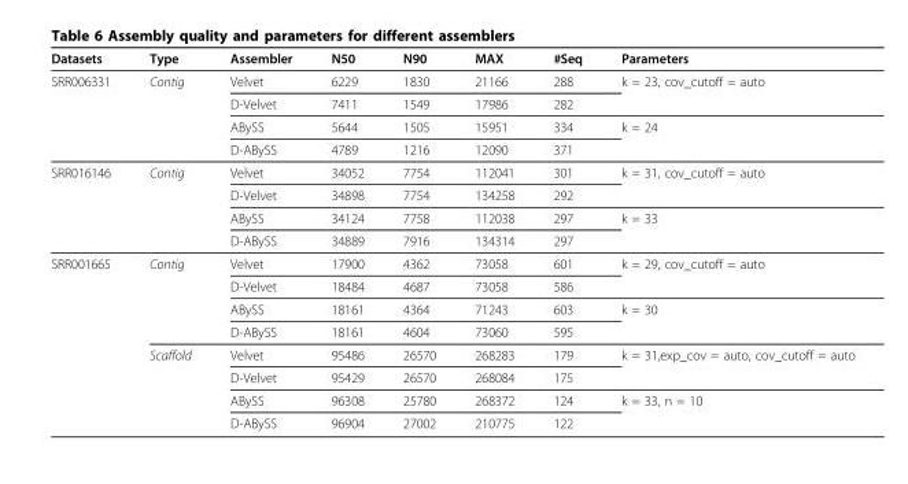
<table><thead><tr><td>Datasets</td><td>Type</td><td>Assembler</td><td>N50</td><td>N90</td><td>MAX</td><td>#Seq</td><td>Parameters</td></tr></thead><tbody><tr><td rowspan="4">SRR006331</td><td>Contig</td><td>Velvet</td><td>6229</td><td>1830</td><td>21166</td><td>288</td><td>k = 23, cov_cutoff = auto</td></tr><tr><td></td><td>D-Velvet</td><td>7411</td><td>1549</td><td>17986</td><td>282</td><td></td></tr><tr><td></td><td>ABySS</td><td>5644</td><td>1505</td><td>15951</td><td>334</td><td>k = 24</td></tr><tr><td></td><td>D-ABySS</td><td>4789</td><td>1216</td><td>12090</td><td>371</td><td></td></tr><tr><td rowspan="4">SRR016146</td><td>Contig</td><td>Velvet</td><td>34052</td><td>7754</td><td>112041</td><td>301</td><td>k = 31, cov_cutoff = auto</td></tr><tr><td></td><td>D-Velvet</td><td>34898</td><td>7754</td><td>134258</td><td>292</td><td></td></tr><tr><td></td><td>ABySS</td><td>34124</td><td>7758</td><td>112038</td><td>297</td><td>k = 33</td></tr><tr><td></td><td>D-ABySS</td><td>34889</td><td>7916</td><td>134314</td><td>297</td><td></td></tr><tr><td rowspan="8">SRR001665</td><td>Contig</td><td>Velvet</td><td>17900</td><td>4362</td><td>73058</td><td>601</td><td>k = 29, cov_cutoff = auto</td></tr><tr><td></td><td>D-Velvet</td><td>18484</td><td>4687</td><td>73058</td><td>586</td><td></td></tr><tr><td></td><td>ABySS</td><td>18161</td><td>4364</td><td>71243</td><td>603</td><td>k = 30</td></tr><tr><td></td><td>D-ABySS</td><td>18161</td><td>4604</td><td>73060</td><td>595</td><td></td></tr><tr><td>Scaffold</td><td>Velvet</td><td>95486</td><td>26570</td><td>268283</td><td>179</td><td>k = 31,exp_cov = auto, cov_cutoff = auto</td></tr><tr><td></td><td>D-Velvet</td><td>95429</td><td>26570</td><td>268084</td><td>175</td><td></td></tr><tr><td></td><td>ABySS</td><td>96308</td><td>25780</td><td>268372</td><td>124</td><td>k = 33, n = 10</td></tr><tr><td></td><td>D-ABySS</td><td>96904</td><td>27002</td><td>210775</td><td>122</td><td></td></tr></tbody></table>